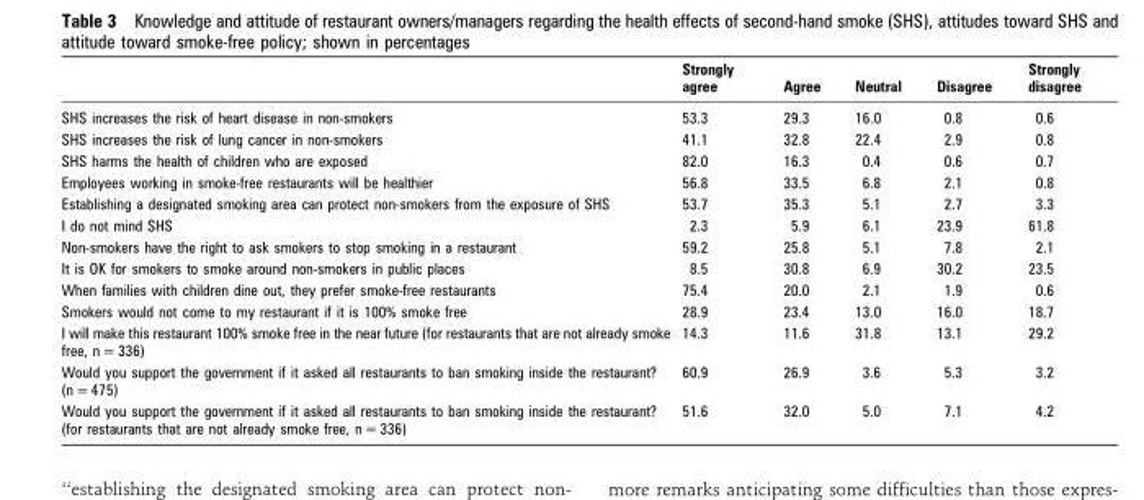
<table><thead><tr><td></td><td>Strongly agree</td><td>Agree</td><td>Neutral</td><td>Disagree</td><td>Strongly disagree</td></tr></thead><tbody><tr><td>SHS increases the risk of heart disease in non-smokers</td><td>53.3</td><td>29.3</td><td>16.0</td><td>0.8</td><td>0.6</td></tr><tr><td>SHS increases the risk of lung cancer in non-smokers</td><td>41.1</td><td>32.8</td><td>22.4</td><td>2.9</td><td>0.8</td></tr><tr><td>SHS harms the health of children who are exposed</td><td>82.0</td><td>16.3</td><td>0.4</td><td>0.6</td><td>0.7</td></tr><tr><td>Employees working in smoke-free restaurants will be healthier</td><td>56.8</td><td>33.5</td><td>6.8</td><td>2.1</td><td>0.8</td></tr><tr><td>Establishing a designated smoking area can protect non-smokers from the exposure of SHS</td><td>53.7</td><td>35.3</td><td>5.1</td><td>2.7</td><td>3.3</td></tr><tr><td>I do not mind SHS</td><td>2.3</td><td>5.9</td><td>6.1</td><td>23.9</td><td>61.8</td></tr><tr><td>Non-smokers have the right to ask smokers to stop smoking in a restaurant</td><td>59.2</td><td>25.8</td><td>5.1</td><td>7.8</td><td>2.1</td></tr><tr><td>It is OK for smokers to smoke around non-smokers in public places</td><td>8.5</td><td>30.8</td><td>6.9</td><td>30.2</td><td>23.5</td></tr><tr><td>When families with children dine out, they prefer smoke-free restaurants</td><td>75.4</td><td>20.0</td><td>2.1</td><td>1.9</td><td>0.6</td></tr><tr><td>Smokers would not come to my restaurant if it is 100% smoke free</td><td>28.9</td><td>23.4</td><td>13.0</td><td>16.0</td><td>18.7</td></tr><tr><td>I will make this restaurant 100% smoke free in the near future (for restaurants that are not already smoke free, n = 336)</td><td>14.3</td><td>11.6</td><td>31.8</td><td>13.1</td><td>29.2</td></tr><tr><td>Would you support the government if it asked all restaurants to ban smoking inside the restaurant? (n = 475)</td><td>60.9</td><td>26.9</td><td>3.6</td><td>5.3</td><td>3.2</td></tr><tr><td>Would you support the government if it asked all restaurants to ban smoking inside the restaurant? (for restaurants that are not already smoke free, n = 336)</td><td>51.6</td><td>32.0</td><td>5.0</td><td>7.1</td><td>4.2</td></tr></tbody></table>